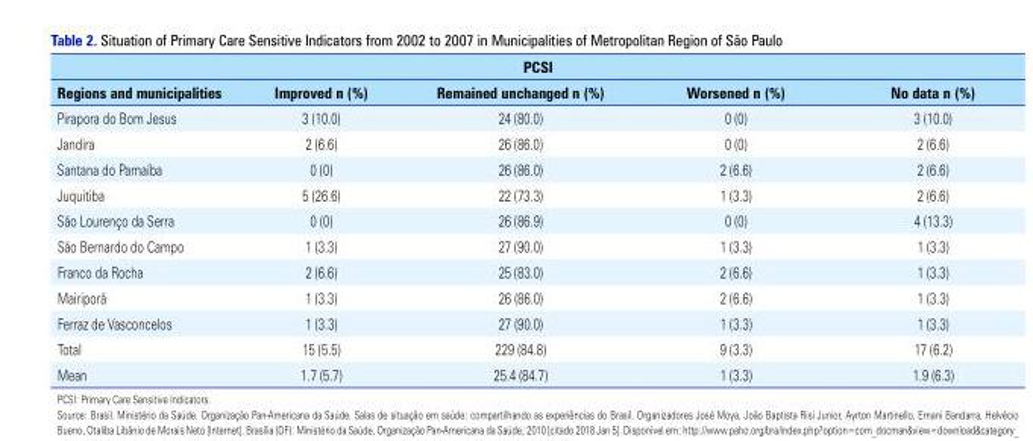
<table><thead><tr><td colspan="5">PCSI</td></tr><tr><td>Regions and municipalities</td><td>Improved n (%)</td><td>Remained unchanged n (%)</td><td>Worsened n (%)</td><td>No data n (%)</td></tr></thead><tbody><tr><td>Pirapora do Bom Jesus</td><td>3 (10.0)</td><td>24 (80.0)</td><td>0 (0)</td><td>3 (10.0)</td></tr><tr><td>Jandira</td><td>2 (6.6)</td><td>26 (86.0)</td><td>0 (0)</td><td>2 (6.6)</td></tr><tr><td>Santana do Parnaíba</td><td>0 (0)</td><td>26 (86.0)</td><td>2 (6.6)</td><td>2 (6.6)</td></tr><tr><td>Juquitiba</td><td>5 (26.6)</td><td>22 (73.3)</td><td>1 (3.3)</td><td>2 (6.6)</td></tr><tr><td>São Lourenço da Serra</td><td>0 (0)</td><td>26 (86.9)</td><td>0 (0)</td><td>4 (13.3)</td></tr><tr><td>São Bernardo do Campo</td><td>1 (3.3)</td><td>27 (90.0)</td><td>1 (3.3)</td><td>1 (3.3)</td></tr><tr><td>Franco da Rocha</td><td>2 (6.6)</td><td>25 (83.0)</td><td>2 (6.6)</td><td>1 (3.3)</td></tr><tr><td>Mairiporã</td><td>1 (3.3)</td><td>26 (86.0)</td><td>2 (6.6)</td><td>1 (3.3)</td></tr><tr><td>Ferraz de Vasconcelos</td><td>1 (3.3)</td><td>27 (90.0)</td><td>1 (3.3)</td><td>1 (3.3)</td></tr><tr><td>Total</td><td>15 (5.5)</td><td>229 (84.8)</td><td>9 (3.3)</td><td>17 (6.2)</td></tr><tr><td>Mean</td><td>1.7 (5.7)</td><td>25.4 (84.7)</td><td>1 (3.3)</td><td>1.9 (6.3)</td></tr></tbody></table>